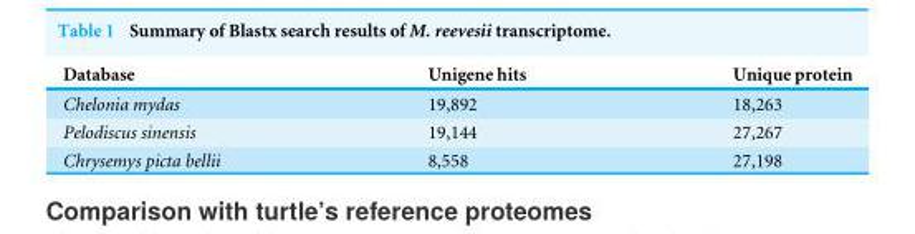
<table><thead><tr><td>Database</td><td>Unigene hits</td><td>Unique protein</td></tr></thead><tbody><tr><td>Chelonia mydas</td><td>19,892</td><td>18,263</td></tr><tr><td>Pelodiscus sinensis</td><td>19,144</td><td>27,267</td></tr><tr><td>Chrysemys picta bellii</td><td>8,558</td><td>27,198</td></tr></tbody></table>